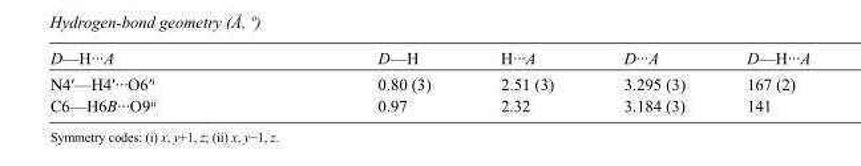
<table><tbody><tr><td>D—H···A</td><td>D—H</td><td>H···A</td><td>D···A</td><td>D—H···A</td></tr><tr><td>N4′—H4′···O6′<sup>i</sup></td><td>0.80 (3)</td><td>2.51 (3)</td><td>3.295 (3)</td><td>167 (2)</td></tr><tr><td>C6—H6B···O9<sup>ii</sup></td><td>0.97</td><td>2.32</td><td>3.184 (3)</td><td>141</td></tr></tbody></table>